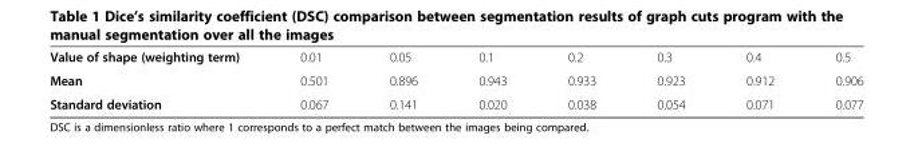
<table><tbody><tr><td>Value of shape (weighting term)</td><td>0.01</td><td>0.05</td><td>0.1</td><td>0.2</td><td>0.3</td><td>0.4</td><td>0.5</td></tr><tr><td>Mean</td><td>0.501</td><td>0.896</td><td>0.943</td><td>0.933</td><td>0.923</td><td>0.912</td><td>0.906</td></tr><tr><td>Standard deviation</td><td>0.067</td><td>0.141</td><td>0.020</td><td>0.038</td><td>0.054</td><td>0.071</td><td>0.077</td></tr></tbody></table>